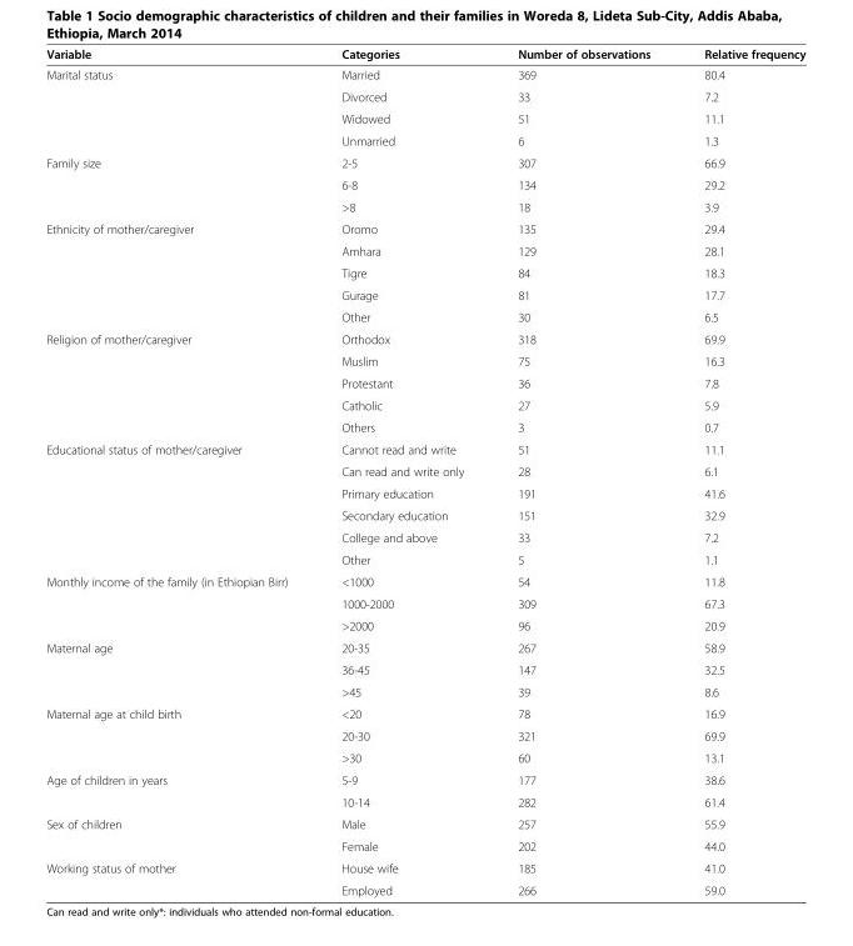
<table><thead><tr><td>Variable</td><td>Categories</td><td>Number of observations</td><td>Relative frequency</td></tr></thead><tbody><tr><td rowspan="4">Marital status</td><td>Married</td><td>369</td><td>80.4</td></tr><tr><td>Divorced</td><td>33</td><td>7.2</td></tr><tr><td>Widowed</td><td>51</td><td>11.1</td></tr><tr><td>Unmarried</td><td>6</td><td>1.3</td></tr><tr><td rowspan="3">Family size</td><td>2-5</td><td>307</td><td>66.9</td></tr><tr><td>6-8</td><td>134</td><td>29.2</td></tr><tr><td>&gt;8</td><td>18</td><td>3.9</td></tr><tr><td rowspan="5">Ethnicity of mother/caregiver</td><td>Oromo</td><td>135</td><td>29.4</td></tr><tr><td>Amhara</td><td>129</td><td>28.1</td></tr><tr><td>Tigre</td><td>84</td><td>18.3</td></tr><tr><td>Gurage</td><td>81</td><td>17.7</td></tr><tr><td>Other</td><td>30</td><td>6.5</td></tr><tr><td rowspan="5">Religion of mother/caregiver</td><td>Orthodox</td><td>318</td><td>69.9</td></tr><tr><td>Muslim</td><td>75</td><td>16.3</td></tr><tr><td>Protestant</td><td>36</td><td>7.8</td></tr><tr><td>Catholic</td><td>27</td><td>5.9</td></tr><tr><td>Others</td><td>3</td><td>0.7</td></tr><tr><td rowspan="6">Educational status of mother/caregiver</td><td>Cannot read and write</td><td>51</td><td>11.1</td></tr><tr><td>Can read and write only</td><td>28</td><td>6.1</td></tr><tr><td>Primary education</td><td>191</td><td>41.6</td></tr><tr><td>Secondary education</td><td>151</td><td>32.9</td></tr><tr><td>College and above</td><td>33</td><td>7.2</td></tr><tr><td>Other</td><td>5</td><td>1.1</td></tr><tr><td rowspan="3">Monthly income of the family (in Ethiopian Birr)</td><td>&lt;1000</td><td>54</td><td>11.8</td></tr><tr><td>1000-2000</td><td>309</td><td>67.3</td></tr><tr><td>&gt;2000</td><td>96</td><td>20.9</td></tr><tr><td rowspan="3">Maternal age</td><td>20-35</td><td>267</td><td>58.9</td></tr><tr><td>36-45</td><td>147</td><td>32.5</td></tr><tr><td>&gt;45</td><td>39</td><td>8.6</td></tr><tr><td rowspan="3">Maternal age at child birth</td><td>&lt;20</td><td>78</td><td>16.9</td></tr><tr><td>20-30</td><td>321</td><td>69.9</td></tr><tr><td>&gt;30</td><td>60</td><td>13.1</td></tr><tr><td rowspan="2">Age of children in years</td><td>5-9</td><td>177</td><td>38.6</td></tr><tr><td>10-14</td><td>282</td><td>61.4</td></tr><tr><td rowspan="2">Sex of children</td><td>Male</td><td>257</td><td>55.9</td></tr><tr><td>Female</td><td>202</td><td>44.0</td></tr><tr><td rowspan="2">Working status of mother</td><td>House wife</td><td>185</td><td>41.0</td></tr><tr><td>Employed</td><td>266</td><td>59.0</td></tr></tbody></table>